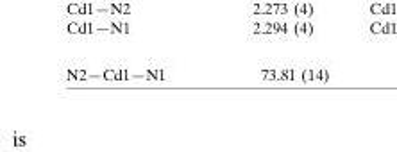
<table><tbody><tr><td>N2—Cd1—N1</td><td>73.81 (14)</td></tr></tbody></table>